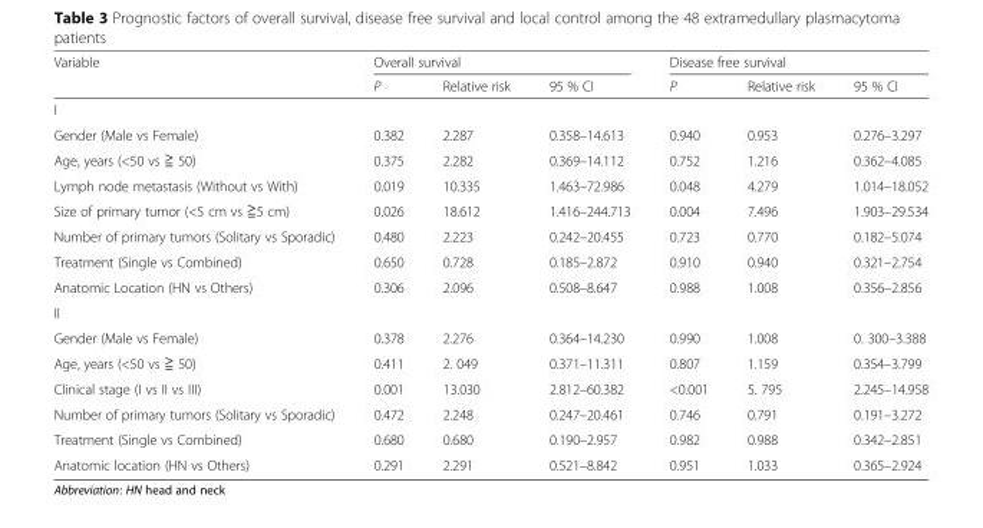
<table><thead><tr><td rowspan="2">Variable</td><td colspan="3">Overall survival</td><td colspan="3">Disease free survival</td></tr><tr><td>P</td><td>Relative risk</td><td>95 % CI</td><td>P</td><td>Relative risk</td><td>95 % CI</td></tr></thead><tbody><tr><td colspan="7">I</td></tr><tr><td>Gender (Male vs Female)</td><td>0.382</td><td>2.287</td><td>0.358–14.613</td><td>0.940</td><td>0.953</td><td>0.276–3.297</td></tr><tr><td>Age, years (&lt;50 vs ≧ 50)</td><td>0.375</td><td>2.282</td><td>0.369–14.112</td><td>0.752</td><td>1.216</td><td>0.362–4.085</td></tr><tr><td>Lymph node metastasis (Without vs With)</td><td>0.019</td><td>10.335</td><td>1.463–72.986</td><td>0.048</td><td>4.279</td><td>1.014–18.052</td></tr><tr><td>Size of primary tumor (&lt;5 cm vs ≧5 cm)</td><td>0.026</td><td>18.612</td><td>1.416–244.713</td><td>0.004</td><td>7.496</td><td>1.903–29.534</td></tr><tr><td>Number of primary tumors (Solitary vs Sporadic)</td><td>0.480</td><td>2.223</td><td>0.242–20.455</td><td>0.723</td><td>0.770</td><td>0.182–5.074</td></tr><tr><td>Treatment (Single vs Combined)</td><td>0.650</td><td>0.728</td><td>0.185–2.872</td><td>0.910</td><td>0.940</td><td>0.321–2.754</td></tr><tr><td>Anatomic Location (HN vs Others)</td><td>0.306</td><td>2.096</td><td>0.508–8.647</td><td>0.988</td><td>1.008</td><td>0.356–2.856</td></tr><tr><td colspan="7">II</td></tr><tr><td>Gender (Male vs Female)</td><td>0.378</td><td>2.276</td><td>0.364–14.230</td><td>0.990</td><td>1.008</td><td>0. 300–3.388</td></tr><tr><td>Age, years (&lt;50 vs ≧ 50)</td><td>0.411</td><td>2. 049</td><td>0.371–11.311</td><td>0.807</td><td>1.159</td><td>0.354–3.799</td></tr><tr><td>Clinical stage (I vs II vs III)</td><td>0.001</td><td>13.030</td><td>2.812–60.382</td><td>&lt;0.001</td><td>5. 795</td><td>2.245–14.958</td></tr><tr><td>Number of primary tumors (Solitary vs Sporadic)</td><td>0.472</td><td>2.248</td><td>0.247–20.461</td><td>0.746</td><td>0.791</td><td>0.191–3.272</td></tr><tr><td>Treatment (Single vs Combined)</td><td>0.680</td><td>0.680</td><td>0.190–2.957</td><td>0.982</td><td>0.988</td><td>0.342–2.851</td></tr><tr><td>Anatomic location (HN vs Others)</td><td>0.291</td><td>2.291</td><td>0.521–8.842</td><td>0.951</td><td>1.033</td><td>0.365–2.924</td></tr></tbody></table>